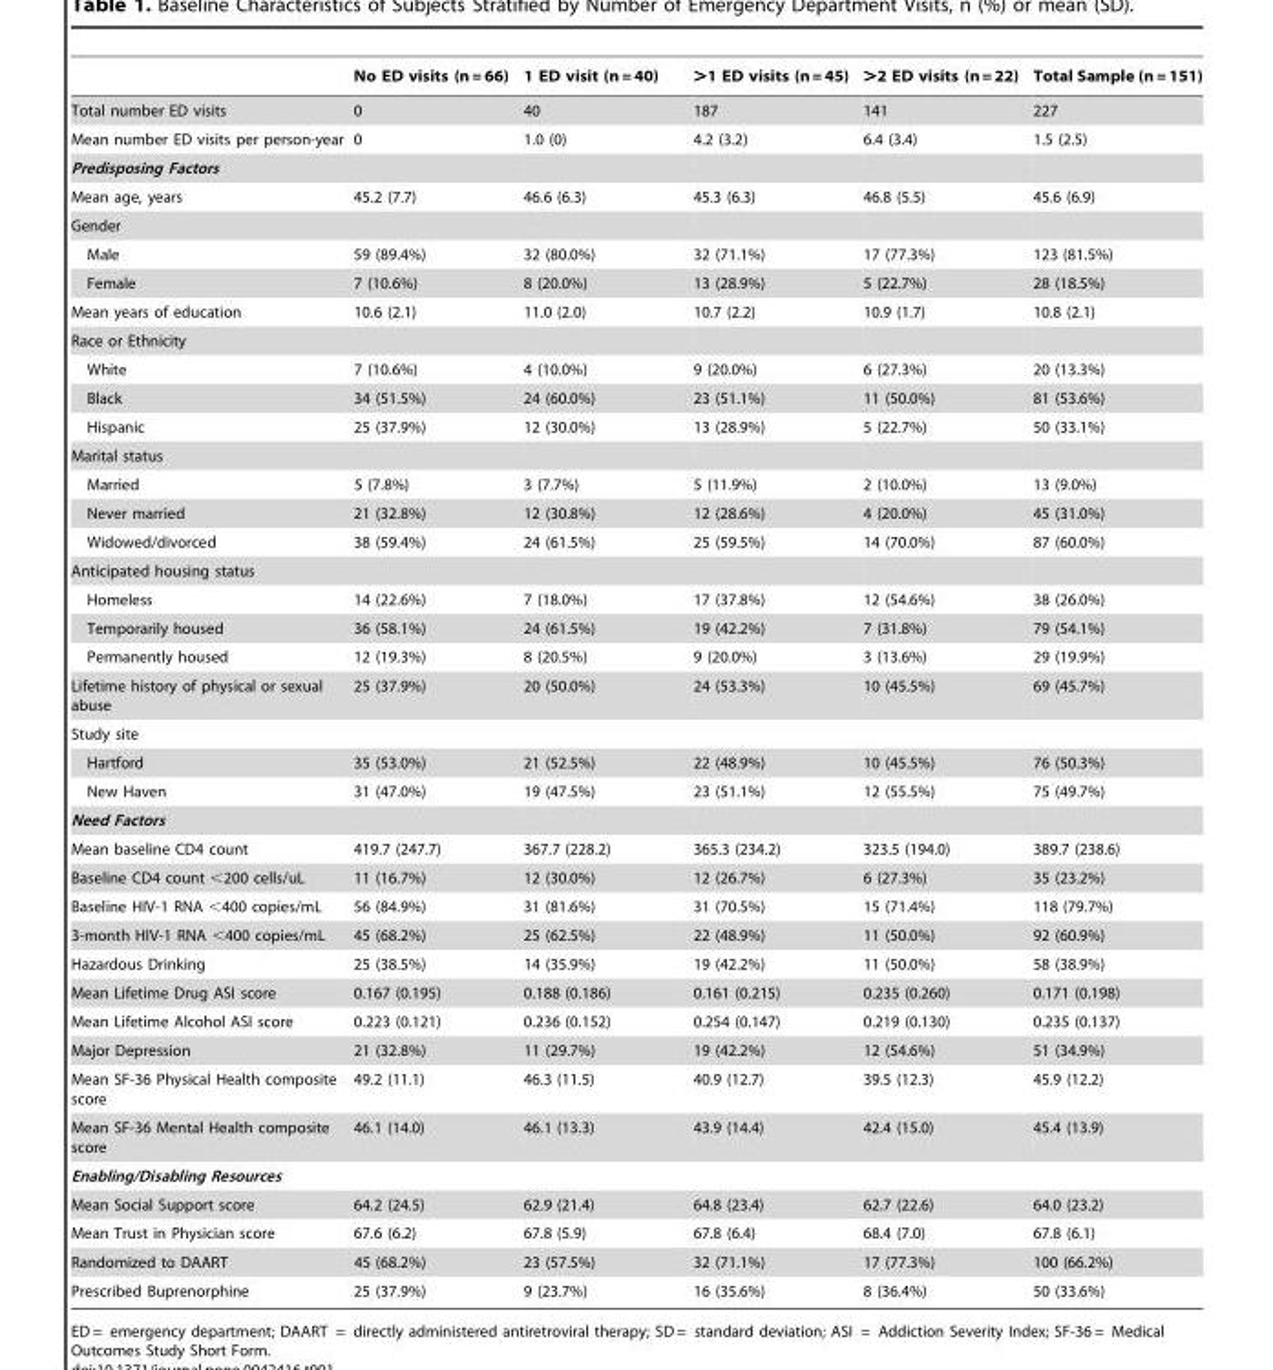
<table><thead><tr><td></td><td>No ED visits (n = 66)</td><td>1 ED visit (n = 40)</td><td>&gt;1 ED visits (n = 45)</td><td>&gt;2 ED visits (n = 22)</td><td>Total Sample (n = 151)</td></tr></thead><tbody><tr><td>Total number ED visits</td><td>0</td><td>40</td><td>187</td><td>141</td><td>227</td></tr><tr><td>Mean number ED visits per person-year</td><td>0</td><td>1.0 (0)</td><td>4.2 (3.2)</td><td>6.4 (3.4)</td><td>1.5 (2.5)</td></tr><tr><td colspan="6">Predisposing Factors</td></tr><tr><td>Mean age, years</td><td>45.2 (7.7)</td><td>46.6 (6.3)</td><td>45.3 (6.3)</td><td>46.8 (5.5)</td><td>45.6 (6.9)</td></tr><tr><td colspan="6">Gender</td></tr><tr><td>Male</td><td>59 (89.4%)</td><td>32 (80.0%)</td><td>32 (71.1%)</td><td>17 (77.3%)</td><td>123 (81.5%)</td></tr><tr><td>Female</td><td>7 (10.6%)</td><td>8 (20.0%)</td><td>13 (28.9%)</td><td>5 (22.7%)</td><td>28 (18.5%)</td></tr><tr><td>Mean years of education</td><td>10.6 (2.1)</td><td>11.0 (2.0)</td><td>10.7 (2.2)</td><td>10.9 (1.7)</td><td>10.8 (2.1)</td></tr><tr><td colspan="6">Race or Ethnicity</td></tr><tr><td>White</td><td>7 (10.6%)</td><td>4 (10.0%)</td><td>9 (20.0%)</td><td>6 (27.3%)</td><td>20 (13.3%)</td></tr><tr><td>Black</td><td>34 (51.5%)</td><td>24 (60.0%)</td><td>23 (51.1%)</td><td>11 (50.0%)</td><td>81 (53.6%)</td></tr><tr><td>Hispanic</td><td>25 (37.9%)</td><td>12 (30.0%)</td><td>13 (28.9%)</td><td>5 (22.7%)</td><td>50 (33.1%)</td></tr><tr><td colspan="6">Marital status</td></tr><tr><td>Married</td><td>5 (7.8%)</td><td>3 (7.7%)</td><td>5 (11.9%)</td><td>2 (10.0%)</td><td>13 (9.0%)</td></tr><tr><td>Never married</td><td>21 (32.8%)</td><td>12 (30.8%)</td><td>12 (28.6%)</td><td>4 (20.0%)</td><td>45 (31.0%)</td></tr><tr><td>Widowed/divorced</td><td>38 (59.4%)</td><td>24 (61.5%)</td><td>25 (59.5%)</td><td>14 (70.0%)</td><td>87 (60.0%)</td></tr><tr><td colspan="6">Anticipated housing status</td></tr><tr><td>Homeless</td><td>14 (22.6%)</td><td>7 (18.0%)</td><td>17 (37.8%)</td><td>12 (54.6%)</td><td>38 (26.0%)</td></tr><tr><td>Temporarily housed</td><td>36 (58.1%)</td><td>24 (61.5%)</td><td>19 (42.2%)</td><td>7 (31.8%)</td><td>79 (54.1%)</td></tr><tr><td>Permanently housed</td><td>12 (19.3%)</td><td>8 (20.5%)</td><td>9 (20.0%)</td><td>3 (13.6%)</td><td>29 (19.9%)</td></tr><tr><td>Lifetime history of physical or sexual abuse</td><td>25 (37.9%)</td><td>20 (50.0%)</td><td>24 (53.3%)</td><td>10 (45.5%)</td><td>69 (45.7%)</td></tr><tr><td colspan="6">Study site</td></tr><tr><td>Hartford</td><td>35 (53.0%)</td><td>21 (52.5%)</td><td>22 (48.9%)</td><td>10 (45.5%)</td><td>76 (50.3%)</td></tr><tr><td>New Haven</td><td>31 (47.0%)</td><td>19 (47.5%)</td><td>23 (51.1%)</td><td>12 (55.5%)</td><td>75 (49.7%)</td></tr><tr><td colspan="6">Need Factors</td></tr><tr><td>Mean baseline CD4 count</td><td>419.7 (247.7)</td><td>367.7 (228.2)</td><td>365.3 (234.2)</td><td>323.5 (194.0)</td><td>389.7 (238.6)</td></tr><tr><td>Baseline CD4 count &lt;200 cells/uL</td><td>11 (16.7%)</td><td>12 (30.0%)</td><td>12 (26.7%)</td><td>6 (27.3%)</td><td>35 (23.2%)</td></tr><tr><td>Baseline HIV-1 RNA &lt;400 copies/mL</td><td>56 (84.9%)</td><td>31 (81.6%)</td><td>31 (70.5%)</td><td>15 (71.4%)</td><td>118 (79.7%)</td></tr><tr><td>3-month HIV-1 RNA &lt;400 copies/mL</td><td>45 (68.2%)</td><td>25 (62.5%)</td><td>22 (48.9%)</td><td>11 (50.0%)</td><td>92 (60.9%)</td></tr><tr><td>Hazardous Drinking</td><td>25 (38.5%)</td><td>14 (35.9%)</td><td>19 (42.2%)</td><td>11 (50.0%)</td><td>58 (38.9%)</td></tr><tr><td>Mean Lifetime Drug ASI score</td><td>0.167 (0.195)</td><td>0.188 (0.186)</td><td>0.161 (0.215)</td><td>0.235 (0.260)</td><td>0.171 (0.198)</td></tr><tr><td>Mean Lifetime Alcohol ASI score</td><td>0.223 (0.121)</td><td>0.236 (0.152)</td><td>0.254 (0.147)</td><td>0.219 (0.130)</td><td>0.235 (0.137)</td></tr><tr><td>Major Depression</td><td>21 (32.8%)</td><td>11 (29.7%)</td><td>19 (42.2%)</td><td>12 (54.6%)</td><td>51 (34.9%)</td></tr><tr><td>Mean SF-36 Physical Health composite score</td><td>49.2 (11.1)</td><td>46.3 (11.5)</td><td>40.9 (12.7)</td><td>39.5 (12.3)</td><td>45.9 (12.2)</td></tr><tr><td>Mean SF-36 Mental Health composite score</td><td>46.1 (14.0)</td><td>46.1 (13.3)</td><td>43.9 (14.4)</td><td>42.4 (15.0)</td><td>45.4 (13.9)</td></tr><tr><td colspan="6">Enabling/Disabling Resources</td></tr><tr><td>Mean Social Support score</td><td>64.2 (24.5)</td><td>62.9 (21.4)</td><td>64.8 (23.4)</td><td>62.7 (22.6)</td><td>64.0 (23.2)</td></tr><tr><td>Mean Trust in Physician score</td><td>67.6 (6.2)</td><td>67.8 (5.9)</td><td>67.8 (6.4)</td><td>68.4 (7.0)</td><td>67.8 (6.1)</td></tr><tr><td>Randomized to DAART</td><td>45 (68.2%)</td><td>23 (57.5%)</td><td>32 (71.1%)</td><td>17 (77.3%)</td><td>100 (66.2%)</td></tr><tr><td>Prescribed Buprenorphine</td><td>25 (37.9%)</td><td>9 (23.7%)</td><td>16 (35.6%)</td><td>8 (36.4%)</td><td>50 (33.6%)</td></tr></tbody></table>